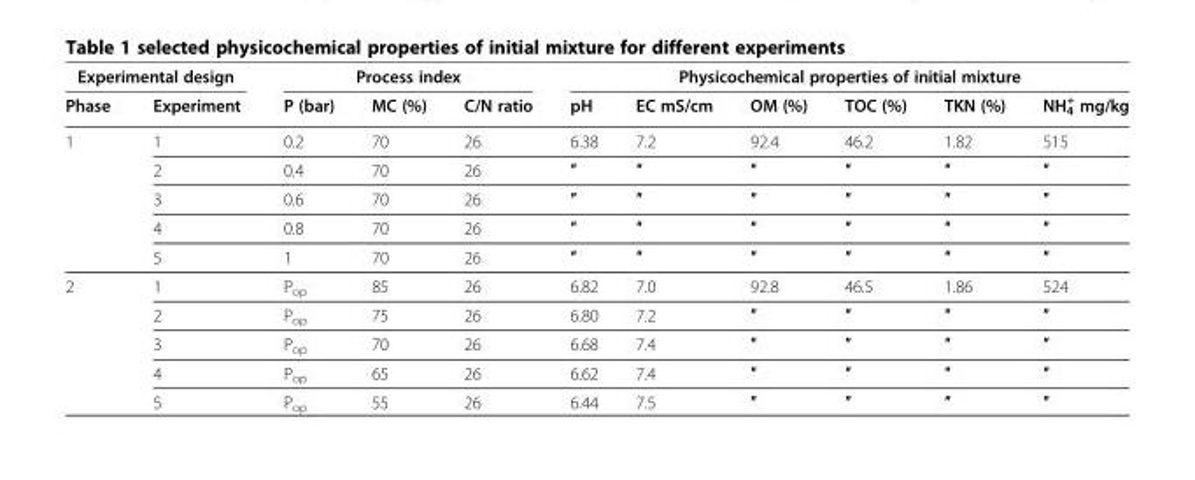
<table><thead><tr><td colspan="2">Experimental design</td><td colspan="3">Process index</td><td colspan="6">Physicochemical properties of initial mixture</td></tr><tr><td>Phase</td><td>Experiment</td><td>P (bar)</td><td>MC (%)</td><td>C/N ratio</td><td>pH</td><td>EC mS/cm</td><td>OM (%)</td><td>TOC (%)</td><td>TKN (%)</td><td>NH<sub>4</sub> <sup>+</sup> mg/kg</td></tr></thead><tbody><tr><td rowspan="5">1</td><td>1</td><td>0.2</td><td>70</td><td>26</td><td>6.38</td><td>7.2</td><td>92.4</td><td>46.2</td><td>1.82</td><td>515</td></tr><tr><td>2</td><td>0.4</td><td>70</td><td>26</td><td>″</td><td>″</td><td>″</td><td>″</td><td>″</td><td>″</td></tr><tr><td>3</td><td>0.6</td><td>70</td><td>26</td><td>″</td><td>″</td><td>″</td><td>″</td><td>″</td><td>″</td></tr><tr><td>4</td><td>0.8</td><td>70</td><td>26</td><td>″</td><td>″</td><td>″</td><td>″</td><td>″</td><td>″</td></tr><tr><td>5</td><td>1</td><td>70</td><td>26</td><td>″</td><td>″</td><td>″</td><td>″</td><td>″</td><td>″</td></tr><tr><td rowspan="5">2</td><td>1</td><td>P<sub>op</sub></td><td>85</td><td>26</td><td>6.82</td><td>7.0</td><td>92.8</td><td>46.5</td><td>1.86</td><td>524</td></tr><tr><td>2</td><td>P<sub>op</sub></td><td>75</td><td>26</td><td>6.80</td><td>7.2</td><td>″</td><td>″</td><td>″</td><td>″</td></tr><tr><td>3</td><td>P<sub>op</sub></td><td>70</td><td>26</td><td>6.68</td><td>7.4</td><td>″</td><td>″</td><td>″</td><td>″</td></tr><tr><td>4</td><td>P<sub>op</sub></td><td>65</td><td>26</td><td>6.62</td><td>7.4</td><td>″</td><td>″</td><td>″</td><td>″</td></tr><tr><td>5</td><td>P<sub>op</sub></td><td>55</td><td>26</td><td>6.44</td><td>7.5</td><td>″</td><td>″</td><td>″</td><td>″</td></tr></tbody></table>